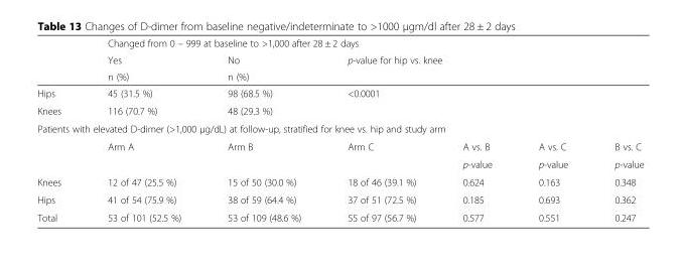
<table><thead><tr><td rowspan="3"></td><td colspan="6">Changed from 0 – 999 at baseline to &gt;1,000 after 28 ± 2 days</td></tr><tr><td rowspan="2">Yes n (%)</td><td rowspan="2">No n (%)</td><td colspan="4">p-value for hip vs. knee</td></tr><tr><td></td><td></td><td></td><td></td></tr></thead><tbody><tr><td>Hips</td><td>45 (31.5 %)</td><td>98 (68.5 %)</td><td colspan="4">&lt;0.0001</td></tr><tr><td>Knees</td><td>116 (70.7 %)</td><td>48 (29.3 %)</td><td colspan="4"></td></tr><tr><td colspan="7">Patients with elevated D-dimer (&gt;1,000 μg/dL) at follow-up, stratified for knee vs. hip and study arm</td></tr><tr><td rowspan="2"></td><td rowspan="2">Arm A</td><td rowspan="2">Arm B</td><td rowspan="2">Arm C</td><td>A vs. B</td><td>A vs. C</td><td>B vs. C</td></tr><tr><td>p-value</td><td>p-value</td><td>p-value</td></tr><tr><td>Knees</td><td>12 of 47 (25.5 %)</td><td>15 of 50 (30.0 %)</td><td>18 of 46 (39.1 %)</td><td>0.624</td><td>0.163</td><td>0.348</td></tr><tr><td>Hips</td><td>41 of 54 (75.9 %)</td><td>38 of 59 (64.4 %)</td><td>37 of 51 (72.5 %)</td><td>0.185</td><td>0.693</td><td>0.362</td></tr><tr><td>Total</td><td>53 of 101 (52.5 %)</td><td>53 of 109 (48.6 %)</td><td>55 of 97 (56.7 %)</td><td>0.577</td><td>0.551</td><td>0.247</td></tr></tbody></table>